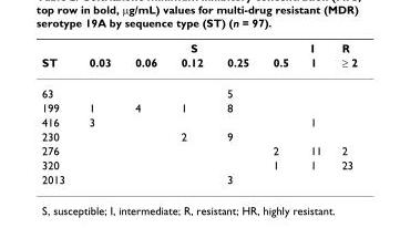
<table><thead><tr><td rowspan="2">ST</td><td colspan="5">S</td><td rowspan="2">I 1</td><td rowspan="2">R ≥ 2</td></tr><tr><td>0.03</td><td>0.06</td><td>0.12</td><td>0.25</td><td>0.5</td></tr></thead><tbody><tr><td>63</td><td></td><td></td><td></td><td>5</td><td></td><td></td><td></td></tr><tr><td>199</td><td>1</td><td>4</td><td>1</td><td>8</td><td></td><td></td><td></td></tr><tr><td>416</td><td>3</td><td></td><td></td><td></td><td></td><td>1</td><td></td></tr><tr><td>230</td><td></td><td></td><td>2</td><td>9</td><td></td><td></td><td></td></tr><tr><td>276</td><td></td><td></td><td></td><td></td><td>2</td><td>11</td><td>2</td></tr><tr><td>320</td><td></td><td></td><td></td><td></td><td>1</td><td>1</td><td>23</td></tr><tr><td>2013</td><td></td><td></td><td></td><td>3</td><td></td><td></td><td></td></tr></tbody></table>